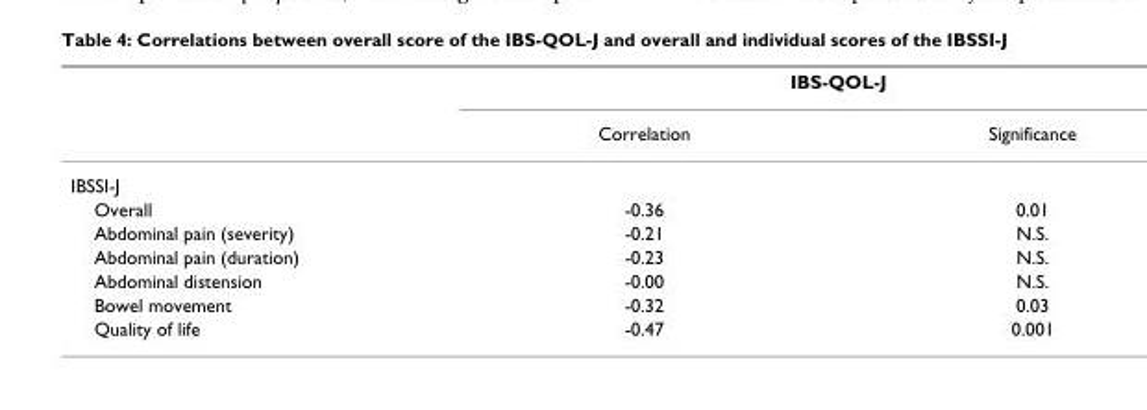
<table><thead><tr><td rowspan="2"></td><td colspan="2">IBS-QOL-J</td></tr><tr><td>Correlation</td><td>Significance</td></tr></thead><tbody><tr><td colspan="3">IBSSI-J</td></tr><tr><td>Overall</td><td>-0.36</td><td>0.01</td></tr><tr><td>Abdominal pain (severity)</td><td>-0.21</td><td>N.S.</td></tr><tr><td>Abdominal pain (duration)</td><td>-0.23</td><td>N.S.</td></tr><tr><td>Abdominal distension</td><td>-0.00</td><td>N.S.</td></tr><tr><td>Bowel movement</td><td>-0.32</td><td>0.03</td></tr><tr><td>Quality of life</td><td>-0.47</td><td>0.001</td></tr></tbody></table>